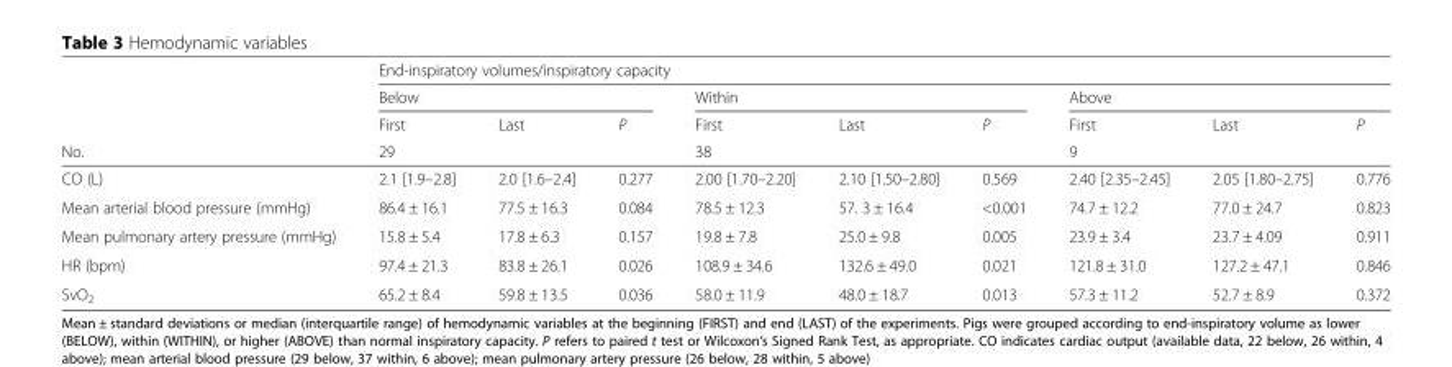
<table><thead><tr><td rowspan="4">No.</td><td colspan="9">End-inspiratory volumes/inspiratory capacity</td></tr><tr><td colspan="3">Below</td><td colspan="3">Within</td><td colspan="3">Above</td></tr><tr><td>First</td><td>Last</td><td rowspan="2">P</td><td>First</td><td>Last</td><td rowspan="2">P</td><td>First</td><td>Last</td><td rowspan="2">P</td></tr><tr><td colspan="2">29</td><td colspan="2">38</td><td colspan="2">9</td></tr></thead><tbody><tr><td>CO (L)</td><td>2.1 [1.9–2.8]</td><td>2.0 [1.6–2.4]</td><td>0.277</td><td>2.00 [1.70–2.20]</td><td>2.10 [1.50–2.80]</td><td>0.569</td><td>2.40 [2.35–2.45]</td><td>2.05 [1.80–2.75]</td><td>0.776</td></tr><tr><td>Mean arterial blood pressure (mmHg)</td><td>86.4 ± 16.1</td><td>77.5 ± 16.3</td><td>0.084</td><td>78.5 ± 12.3</td><td>57. 3 ± 16.4</td><td>&lt;0.001</td><td>74.7 ± 12.2</td><td>77.0 ± 24.7</td><td>0.823</td></tr><tr><td>Mean pulmonary artery pressure (mmHg)</td><td>15.8 ± 5.4</td><td>17.8 ± 6.3</td><td>0.157</td><td>19.8 ± 7.8</td><td>25.0 ± 9.8</td><td>0.005</td><td>23.9 ± 3.4</td><td>23.7 ± 4.09</td><td>0.911</td></tr><tr><td>HR (bpm)</td><td>97.4 ± 21.3</td><td>83.8 ± 26.1</td><td>0.026</td><td>108.9 ± 34.6</td><td>132.6 ± 49.0</td><td>0.021</td><td>121.8 ± 31.0</td><td>127.2 ± 47.1</td><td>0.846</td></tr><tr><td>SvO<sub>2</sub></td><td>65.2 ± 8.4</td><td>59.8 ± 13.5</td><td>0.036</td><td>58.0 ± 11.9</td><td>48.0 ± 18.7</td><td>0.013</td><td>57.3 ± 11.2</td><td>52.7 ± 8.9</td><td>0.372</td></tr></tbody></table>